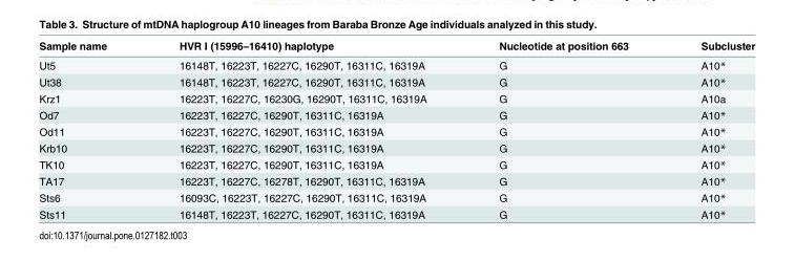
<table><thead><tr><td>Sample name</td><td>HVR I (15996–16410) haplotype</td><td>Nucleotide at position 663</td><td>Subcluster</td></tr></thead><tbody><tr><td>Ut5</td><td>16148T, 16223T, 16227C, 16290T, 16311C, 16319A</td><td>G</td><td>A10*</td></tr><tr><td>Ut38</td><td>16148T, 16223T, 16227C, 16290T, 16311C, 16319A</td><td>G</td><td>A10*</td></tr><tr><td>Krz1</td><td>16223T, 16227C, 16230G, 16290T, 16311C, 16319A</td><td>G</td><td>A10a</td></tr><tr><td>Od7</td><td>16223T, 16227C, 16290T, 16311C, 16319A</td><td>G</td><td>A10*</td></tr><tr><td>Od11</td><td>16223T, 16227C, 16290T, 16311C, 16319A</td><td>G</td><td>A10*</td></tr><tr><td>Krb10</td><td>16223T, 16227C, 16290T, 16311C, 16319A</td><td>G</td><td>A10*</td></tr><tr><td>TK10</td><td>16223T, 16227C, 16290T, 16311C, 16319A</td><td>G</td><td>A10*</td></tr><tr><td>TA17</td><td>16223T, 16227C, 16278T, 16290T, 16311C, 16319A</td><td>G</td><td>A10*</td></tr><tr><td>Sts6</td><td>16093C, 16223T, 16227C, 16290T, 16311C, 16319A</td><td>G</td><td>A10*</td></tr><tr><td>Sts11</td><td>16148T, 16223T, 16227C, 16290T, 16311C, 16319A</td><td>G</td><td>A10*</td></tr></tbody></table>